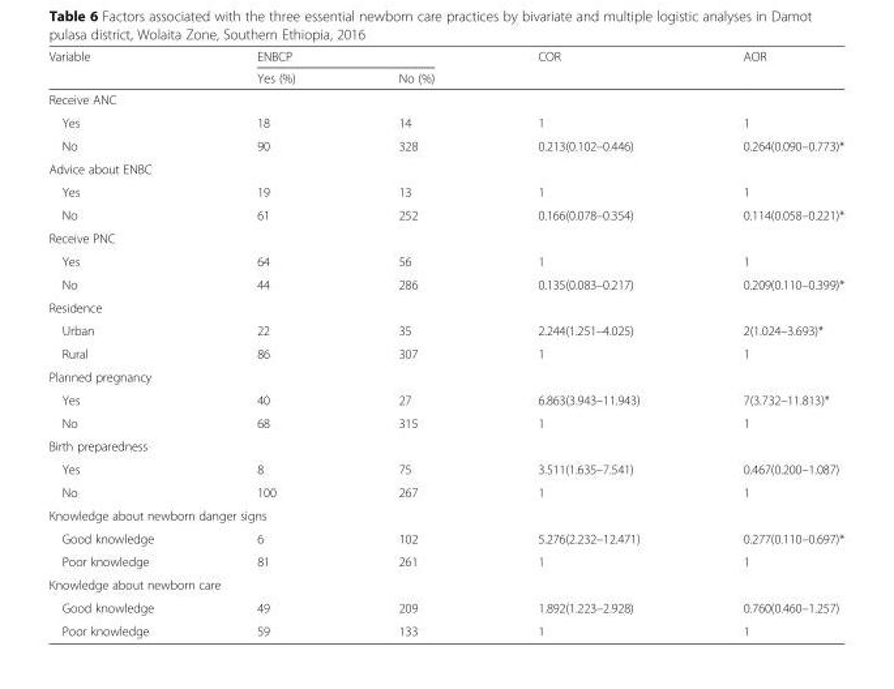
<table><thead><tr><td rowspan="2">Variable</td><td colspan="2">ENBCP</td><td rowspan="2">COR</td><td rowspan="2">AOR</td></tr><tr><td>Yes (%)</td><td>No (%)</td></tr></thead><tbody><tr><td colspan="5">Receive ANC</td></tr><tr><td>Yes</td><td>18</td><td>14</td><td>1</td><td>1</td></tr><tr><td>No</td><td>90</td><td>328</td><td>0.213(0.102–0.446)</td><td>0.264(0.090–0.773)*</td></tr><tr><td colspan="5">Advice about ENBC</td></tr><tr><td>Yes</td><td>19</td><td>13</td><td>1</td><td>1</td></tr><tr><td>No</td><td>61</td><td>252</td><td>0.166(0.078–0.354)</td><td>0.114(0.058–0.221)*</td></tr><tr><td colspan="5">Receive PNC</td></tr><tr><td>Yes</td><td>64</td><td>56</td><td>1</td><td>1</td></tr><tr><td>No</td><td>44</td><td>286</td><td>0.135(0.083–0.217)</td><td>0.209(0.110–0.399)*</td></tr><tr><td colspan="5">Residence</td></tr><tr><td>Urban</td><td>22</td><td>35</td><td>2.244(1.251–4.025)</td><td>2(1.024–3.693)*</td></tr><tr><td>Rural</td><td>86</td><td>307</td><td>1</td><td>1</td></tr><tr><td colspan="5">Planned pregnancy</td></tr><tr><td>Yes</td><td>40</td><td>27</td><td>6.863(3.943–11.943)</td><td>7(3.732–11.813)*</td></tr><tr><td>No</td><td>68</td><td>315</td><td>1</td><td>1</td></tr><tr><td colspan="5">Birth preparedness</td></tr><tr><td>Yes</td><td>8</td><td>75</td><td>3.511(1.635–7.541)</td><td>0.467(0.200–1.087)</td></tr><tr><td>No</td><td>100</td><td>267</td><td>1</td><td>1</td></tr><tr><td colspan="5">Knowledge about newborn danger signs</td></tr><tr><td>Good knowledge</td><td>6</td><td>102</td><td>5.276(2.232–12.471)</td><td>0.277(0.110–0.697)*</td></tr><tr><td>Poor knowledge</td><td>81</td><td>261</td><td>1</td><td>1</td></tr><tr><td colspan="5">Knowledge about newborn care</td></tr><tr><td>Good knowledge</td><td>49</td><td>209</td><td>1.892(1.223–2.928)</td><td>0.760(0.460–1.257)</td></tr><tr><td>Poor knowledge</td><td>59</td><td>133</td><td>1</td><td>1</td></tr></tbody></table>